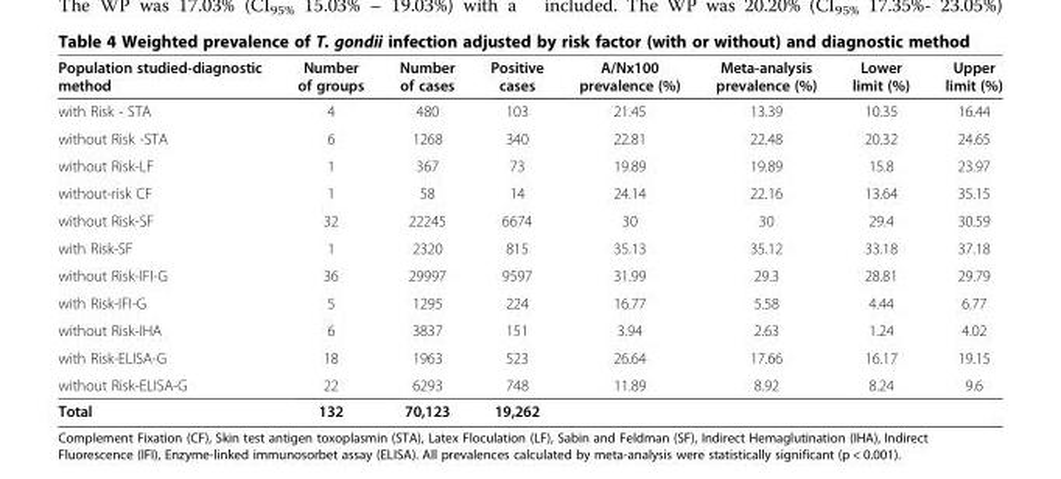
<table><thead><tr><td>Population studied-diagnostic method</td><td>Number of groups</td><td>Number of cases</td><td>Positive cases</td><td>A/Nx100 prevalence (%)</td><td>Meta-analysis prevalence (%)</td><td>Lower limit (%)</td><td>Upper limit (%)</td></tr></thead><tbody><tr><td>with Risk - STA</td><td>4</td><td>480</td><td>103</td><td>21.45</td><td>13.39</td><td>10.35</td><td>16.44</td></tr><tr><td>without Risk -STA</td><td>6</td><td>1268</td><td>340</td><td>22.81</td><td>22.48</td><td>20.32</td><td>24.65</td></tr><tr><td>without Risk-LF</td><td>1</td><td>367</td><td>73</td><td>19.89</td><td>19.89</td><td>15.8</td><td>23.97</td></tr><tr><td>without-risk CF</td><td>1</td><td>58</td><td>14</td><td>24.14</td><td>22.16</td><td>13.64</td><td>35.15</td></tr><tr><td>without Risk-SF</td><td>32</td><td>22245</td><td>6674</td><td>30</td><td>30</td><td>29.4</td><td>30.59</td></tr><tr><td>with Risk-SF</td><td>1</td><td>2320</td><td>815</td><td>35.13</td><td>35.12</td><td>33.18</td><td>37.18</td></tr><tr><td>without Risk-IFI-G</td><td>36</td><td>29997</td><td>9597</td><td>31.99</td><td>29.3</td><td>28.81</td><td>29.79</td></tr><tr><td>with Risk-IFI-G</td><td>5</td><td>1295</td><td>224</td><td>16.77</td><td>5.58</td><td>4.44</td><td>6.77</td></tr><tr><td>without Risk-IHA</td><td>6</td><td>3837</td><td>151</td><td>3.94</td><td>2.63</td><td>1.24</td><td>4.02</td></tr><tr><td>with Risk-ELISA-G</td><td>18</td><td>1963</td><td>523</td><td>26.64</td><td>17.66</td><td>16.17</td><td>19.15</td></tr><tr><td>without Risk-ELISA-G</td><td>22</td><td>6293</td><td>748</td><td>11.89</td><td>8.92</td><td>8.24</td><td>9.6</td></tr><tr><td>Total</td><td>132</td><td>70,123</td><td>19,262</td><td></td><td colspan="3"></td></tr></tbody></table>